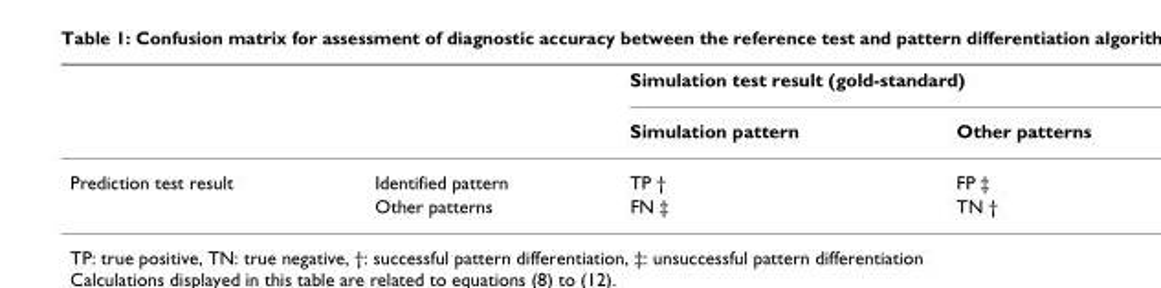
<table><thead><tr><td rowspan="2"></td><td rowspan="2"></td><td colspan="2">Simulation test result (gold-standard)</td></tr><tr><td>Simulation pattern</td><td>Other patterns</td></tr></thead><tbody><tr><td rowspan="2">Prediction test result</td><td>Identified pattern</td><td>TP †</td><td>FP ‡</td></tr><tr><td>Other patterns</td><td>FN ‡</td><td>TN †</td></tr></tbody></table>